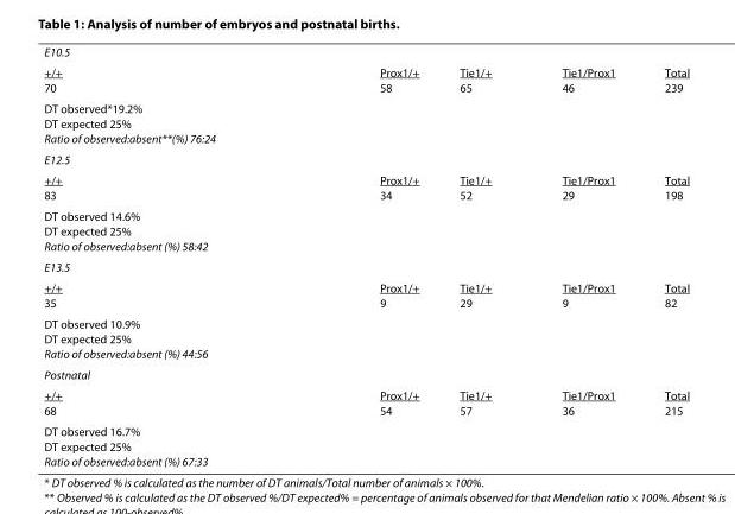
<table><tbody><tr><td colspan="5">E10.5</td></tr><tr><td>+/+ 70</td><td>Prox1/+ 58</td><td>Tie1/+ 65</td><td>Tie1/Prox1 46</td><td>Total 239</td></tr><tr><td colspan="5">DT observed*19.2% DT expected 25% Ratio of observed:absent**(%) 76:24</td></tr><tr><td colspan="5">E12.5</td></tr><tr><td>+/+ 83</td><td>Prox1/+ 34</td><td>Tie1/+ 52</td><td>Tie1/Prox1 29</td><td>Total 198</td></tr><tr><td colspan="5">DT observed 14.6% DT expected 25% Ratio of observed:absent (%) 58:42</td></tr><tr><td colspan="5">E13.5</td></tr><tr><td>+/+ 35</td><td>Prox1/+ 9</td><td>Tie1/+ 29</td><td>Tie1/Prox1 9</td><td>Total 82</td></tr><tr><td colspan="5">DT observed 10.9% DT expected 25% Ratio of observed:absent (%) 44:56</td></tr><tr><td colspan="5">Postnatal</td></tr><tr><td>+/+ 68</td><td>Prox1/+ 54</td><td>Tie1/+ 57</td><td>Tie1/Prox1 36</td><td>Total 215</td></tr><tr><td colspan="5">DT observed 16.7% DT expected 25% Ratio of observed:absent (%) 67:33</td></tr></tbody></table>